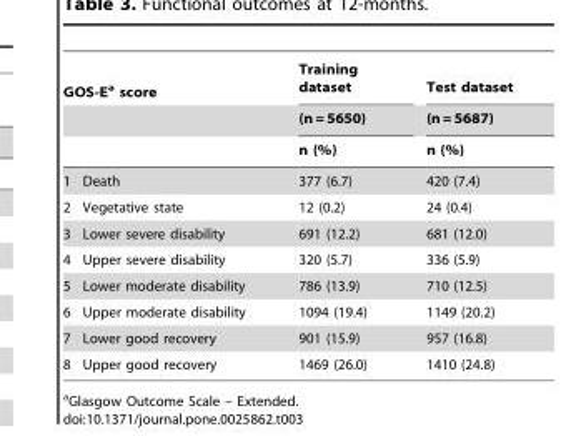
<table><thead><tr><td colspan="2">GOS-E<sup>a</sup> score</td><td rowspan="3">Training dataset (n = 5650) n (%)</td><td rowspan="3">Test dataset (n = 5687) n (%)</td></tr><tr><td rowspan="2"></td><td rowspan="2"></td></tr><tr></tr></thead><tbody><tr><td>1</td><td>Death</td><td>377 (6.7)</td><td>420 (7.4)</td></tr><tr><td>2</td><td>Vegetative state</td><td>12 (0.2)</td><td>24 (0.4)</td></tr><tr><td>3</td><td>Lower severe disability</td><td>691 (12.2)</td><td>681 (12.0)</td></tr><tr><td>4</td><td>Upper severe disability</td><td>320 (5.7)</td><td>336 (5.9)</td></tr><tr><td>5</td><td>Lower moderate disability</td><td>786 (13.9)</td><td>710 (12.5)</td></tr><tr><td>6</td><td>Upper moderate disability</td><td>1094 (19.4)</td><td>1149 (20.2)</td></tr><tr><td>7</td><td>Lower good recovery</td><td>901 (15.9)</td><td>957 (16.8)</td></tr><tr><td>8</td><td>Upper good recovery</td><td>1469 (26.0)</td><td>1410 (24.8)</td></tr></tbody></table>